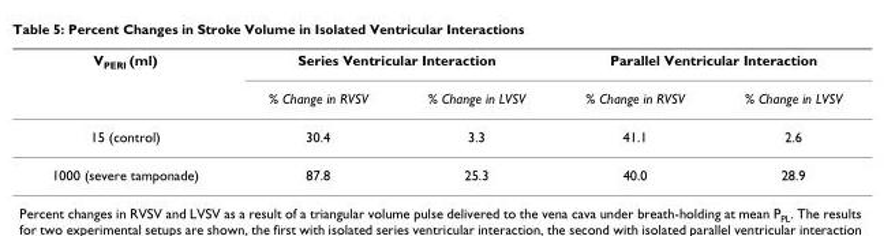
<table><thead><tr><td rowspan="2">V<sub>PERI</sub> (ml)</td><td colspan="2">Series Ventricular Interaction</td><td colspan="2">Parallel Ventricular Interaction</td></tr><tr><td>% Change in RVSV</td><td>% Change in LVSV</td><td>% Change in RVSV</td><td>% Change in LVSV</td></tr></thead><tbody><tr><td>15 (control)</td><td>30.4</td><td>3.3</td><td>41.1</td><td>2.6</td></tr><tr><td>1000 (severe tamponade)</td><td>87.8</td><td>25.3</td><td>40.0</td><td>28.9</td></tr></tbody></table>